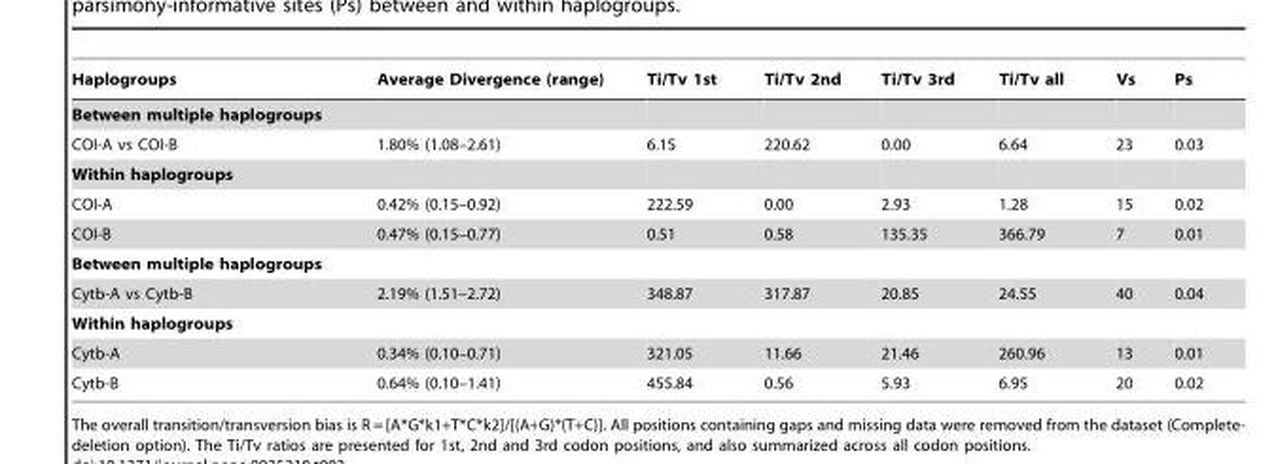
<table><thead><tr><td>Haplogroups</td><td>Average Divergence (range)</td><td>Ti/Tv 1st</td><td>Ti/Tv 2nd</td><td>Ti/Tv 3rd</td><td>Ti/Tv all</td><td>Vs</td><td>Ps</td></tr></thead><tbody><tr><td colspan="8">Between multiple haplogroups</td></tr><tr><td>COI-A vs COI-B</td><td>1.80% (1.08–2.61)</td><td>6.15</td><td>220.62</td><td>0.00</td><td>6.64</td><td>23</td><td>0.03</td></tr><tr><td colspan="8">Within haplogroups</td></tr><tr><td>COI-A</td><td>0.42% (0.15–0.92)</td><td>222.59</td><td>0.00</td><td>2.93</td><td>1.28</td><td>15</td><td>0.02</td></tr><tr><td>COI-B</td><td>0.47% (0.15–0.77)</td><td>0.51</td><td>0.58</td><td>135.35</td><td>366.79</td><td>7</td><td>0.01</td></tr><tr><td colspan="8">Between multiple haplogroups</td></tr><tr><td>Cytb-A vs Cytb-B</td><td>2.19% (1.51–2.72)</td><td>348.87</td><td>317.87</td><td>20.85</td><td>24.55</td><td>40</td><td>0.04</td></tr><tr><td colspan="8">Within haplogroups</td></tr><tr><td>Cytb-A</td><td>0.34% (0.10–0.71)</td><td>321.05</td><td>11.66</td><td>21.46</td><td>260.96</td><td>13</td><td>0.01</td></tr><tr><td>Cytb-B</td><td>0.64% (0.10–1.41)</td><td>455.84</td><td>0.56</td><td>5.93</td><td>6.95</td><td>20</td><td>0.02</td></tr></tbody></table>